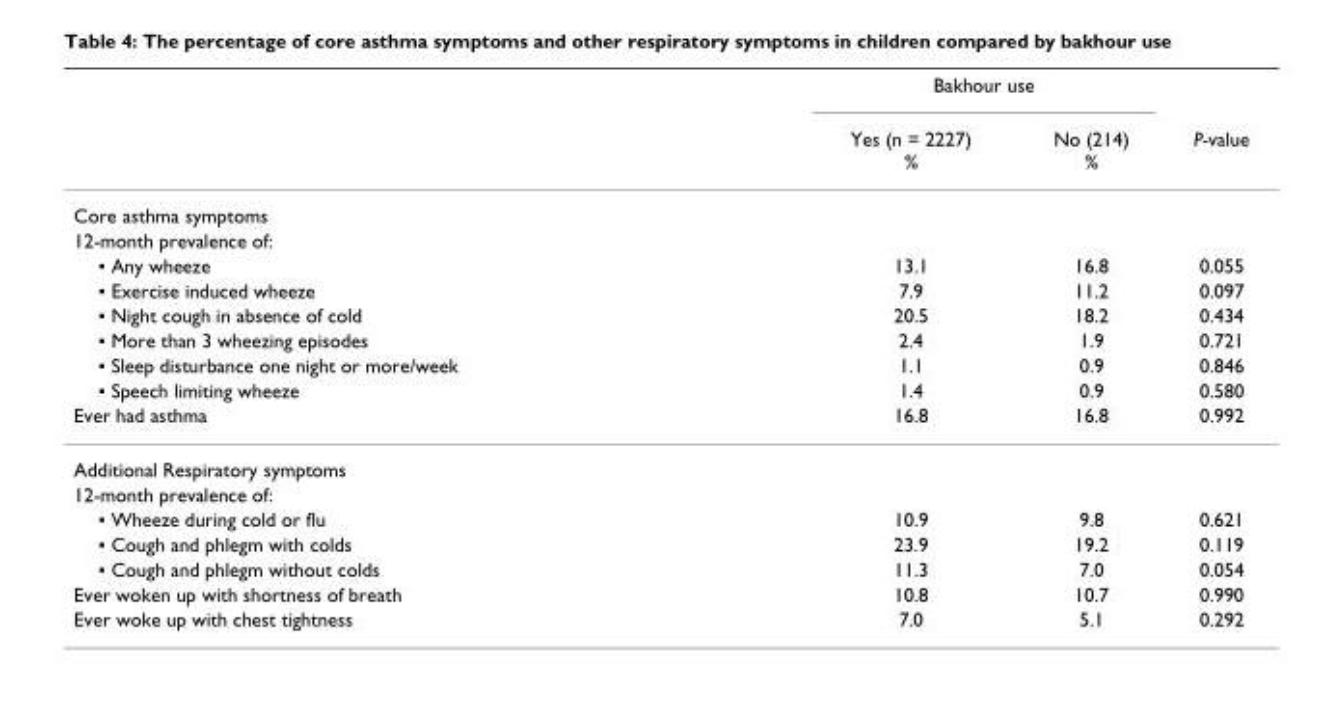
<table><thead><tr><td rowspan="2"></td><td colspan="2">Bakhour use</td><td rowspan="2">P-value</td></tr><tr><td>Yes (n = 2227) %</td><td>No (214) %</td></tr></thead><tbody><tr><td colspan="4">Core asthma symptoms</td></tr><tr><td colspan="4">12-month prevalence of:</td></tr><tr><td>▪ Any wheeze</td><td>13.1</td><td>16.8</td><td>0.055</td></tr><tr><td>▪ Exercise induced wheeze</td><td>7.9</td><td>11.2</td><td>0.097</td></tr><tr><td>▪ Night cough in absence of cold</td><td>20.5</td><td>18.2</td><td>0.434</td></tr><tr><td>▪ More than 3 wheezing episodes</td><td>2.4</td><td>1.9</td><td>0.721</td></tr><tr><td>▪ Sleep disturbance one night or more/week</td><td>1.1</td><td>0.9</td><td>0.846</td></tr><tr><td>▪ Speech limiting wheeze</td><td>1.4</td><td>0.9</td><td>0.580</td></tr><tr><td>Ever had asthma</td><td>16.8</td><td>16.8</td><td>0.992</td></tr><tr><td colspan="4">Additional Respiratory symptoms</td></tr><tr><td colspan="4">12-month prevalence of:</td></tr><tr><td>▪ Wheeze during cold or flu</td><td>10.9</td><td>9.8</td><td>0.621</td></tr><tr><td>▪ Cough and phlegm with colds</td><td>23.9</td><td>19.2</td><td>0.119</td></tr><tr><td>▪ Cough and phlegm without colds</td><td>11.3</td><td>7.0</td><td>0.054</td></tr><tr><td>Ever woken up with shortness of breath</td><td>10.8</td><td>10.7</td><td>0.990</td></tr><tr><td>Ever woke up with chest tightness</td><td>7.0</td><td>5.1</td><td>0.292</td></tr></tbody></table>